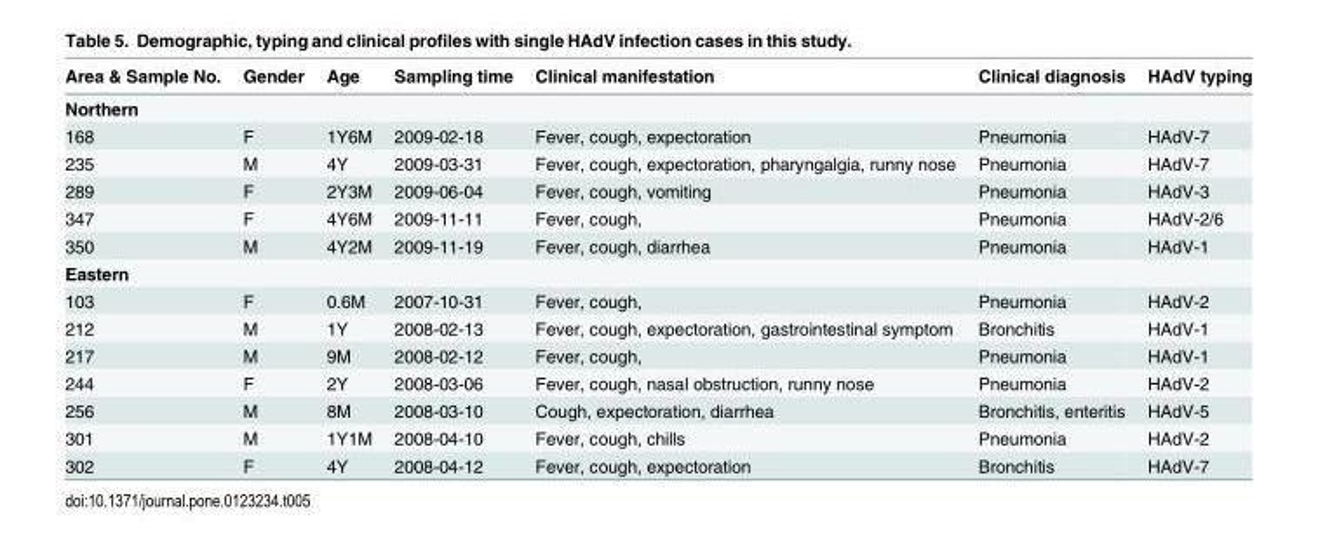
<table><thead><tr><td>Area &amp; Sample No.</td><td>Gender</td><td>Age</td><td>Sampling time</td><td>Clinical manifestation</td><td>Clinical diagnosis</td><td>HAdV typing</td></tr></thead><tbody><tr><td colspan="7">Northern</td></tr><tr><td>168</td><td>F</td><td>1Y6M</td><td>2009-02-18</td><td>Fever, cough, expectoration</td><td>Pneumonia</td><td>HAdV-7</td></tr><tr><td>235</td><td>M</td><td>4Y</td><td>2009-03-31</td><td>Fever, cough, expectoration, pharyngalgia, runny nose</td><td>Pneumonia</td><td>HAdV-7</td></tr><tr><td>289</td><td>F</td><td>2Y3M</td><td>2009-06-04</td><td>Fever, cough, vomiting</td><td>Pneumonia</td><td>HAdV-3</td></tr><tr><td>347</td><td>F</td><td>4Y6M</td><td>2009-11-11</td><td>Fever, cough,</td><td>Pneumonia</td><td>HAdV-2/6</td></tr><tr><td>350</td><td>M</td><td>4Y2M</td><td>2009-11-19</td><td>Fever, cough, diarrhea</td><td>Pneumonia</td><td>HAdV-1</td></tr><tr><td colspan="7">Eastern</td></tr><tr><td>103</td><td>F</td><td>0.6M</td><td>2007-10-31</td><td>Fever, cough,</td><td>Pneumonia</td><td>HAdV-2</td></tr><tr><td>212</td><td>M</td><td>1Y</td><td>2008-02-13</td><td>Fever, cough, expectoration, gastrointestinal symptom</td><td>Bronchitis</td><td>HAdV-1</td></tr><tr><td>217</td><td>M</td><td>9M</td><td>2008-02-12</td><td>Fever, cough,</td><td>Pneumonia</td><td>HAdV-1</td></tr><tr><td>244</td><td>F</td><td>2Y</td><td>2008-03-06</td><td>Fever, cough, nasal obstruction, runny nose</td><td>Pneumonia</td><td>HAdV-2</td></tr><tr><td>256</td><td>M</td><td>8M</td><td>2008-03-10</td><td>Cough, expectoration, diarrhea</td><td>Bronchitis, enteritis</td><td>HAdV-5</td></tr><tr><td>301</td><td>M</td><td>1Y1M</td><td>2008-04-10</td><td>Fever, cough, chills</td><td>Pneumonia</td><td>HAdV-2</td></tr><tr><td>302</td><td>F</td><td>4Y</td><td>2008-04-12</td><td>Fever, cough, expectoration</td><td>Bronchitis</td><td>HAdV-7</td></tr></tbody></table>